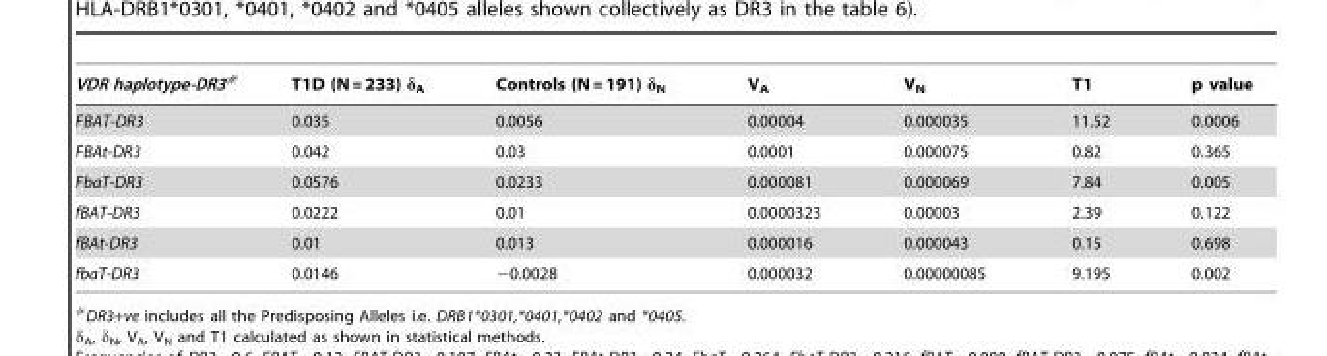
<table><thead><tr><td>VDR haplotype-DR3#</td><td>T1D (N = 233) δ<sub>A</sub></td><td>Controls (N = 191) δ<sub>N</sub></td><td>V<sub>A</sub></td><td>V<sub>N</sub></td><td>T1</td><td>p value</td></tr></thead><tbody><tr><td>FBAT-DR3</td><td>0.035</td><td>0.0056</td><td>0.00004</td><td>0.000035</td><td>11.52</td><td>0.0006</td></tr><tr><td>FBAt-DR3</td><td>0.042</td><td>0.03</td><td>0.0001</td><td>0.000075</td><td>0.82</td><td>0.365</td></tr><tr><td>FbaT-DR3</td><td>0.0576</td><td>0.0233</td><td>0.000081</td><td>0.000069</td><td>7.84</td><td>0.005</td></tr><tr><td>fBAT-DR3</td><td>0.0222</td><td>0.01</td><td>0.0000323</td><td>0.00003</td><td>2.39</td><td>0.122</td></tr><tr><td>fBAt-DR3</td><td>0.01</td><td>0.013</td><td>0.000016</td><td>0.000043</td><td>0.15</td><td>0.698</td></tr><tr><td>fbaT-DR3</td><td>0.0146</td><td>−0.0028</td><td>0.000032</td><td>0.00000085</td><td>9.195</td><td>0.002</td></tr></tbody></table>